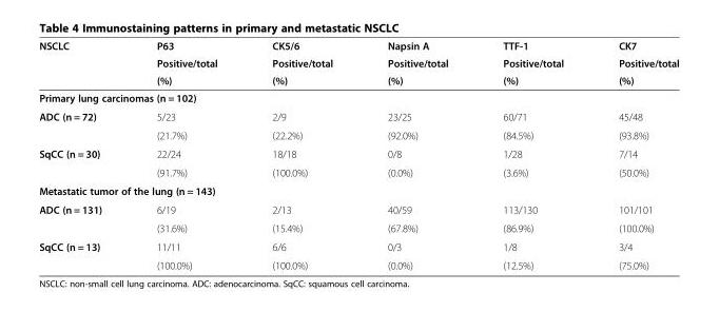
<table><thead><tr><td rowspan="3">NSCLC</td><td rowspan="3">P63 Positive/total (%)</td><td rowspan="3">CK5/6 Positive/total (%)</td><td rowspan="3">Napsin A Positive/total (%)</td><td rowspan="3">TTF-1 Positive/total (%)</td><td rowspan="3">CK7 Positive/total (%)</td></tr><tr></tr><tr></tr></thead><tbody><tr><td colspan="6">Primary lung carcinomas (n = 102)</td></tr><tr><td rowspan="2">ADC (n = 72)</td><td>5/23</td><td>2/9</td><td>23/25</td><td>60/71</td><td>45/48</td></tr><tr><td>(21.7%)</td><td>(22.2%)</td><td>(92.0%)</td><td>(84.5%)</td><td>(93.8%)</td></tr><tr><td rowspan="2">SqCC (n = 30)</td><td>22/24</td><td>18/18</td><td>0/8</td><td>1/28</td><td>7/14</td></tr><tr><td>(91.7%)</td><td>(100.0%)</td><td>(0.0%)</td><td>(3.6%)</td><td>(50.0%)</td></tr><tr><td colspan="6">Metastatic tumor of the lung (n = 143)</td></tr><tr><td rowspan="2">ADC (n = 131)</td><td>6/19</td><td>2/13</td><td>40/59</td><td>113/130</td><td>101/101</td></tr><tr><td>(31.6%)</td><td>(15.4%)</td><td>(67.8%)</td><td>(86.9%)</td><td>(100.0%)</td></tr><tr><td rowspan="2">SqCC (n = 13)</td><td>11/11</td><td>6/6</td><td>0/3</td><td>1/8</td><td>3/4</td></tr><tr><td>(100.0%)</td><td>(100.0%)</td><td>(0.0%)</td><td>(12.5%)</td><td>(75.0%)</td></tr></tbody></table>